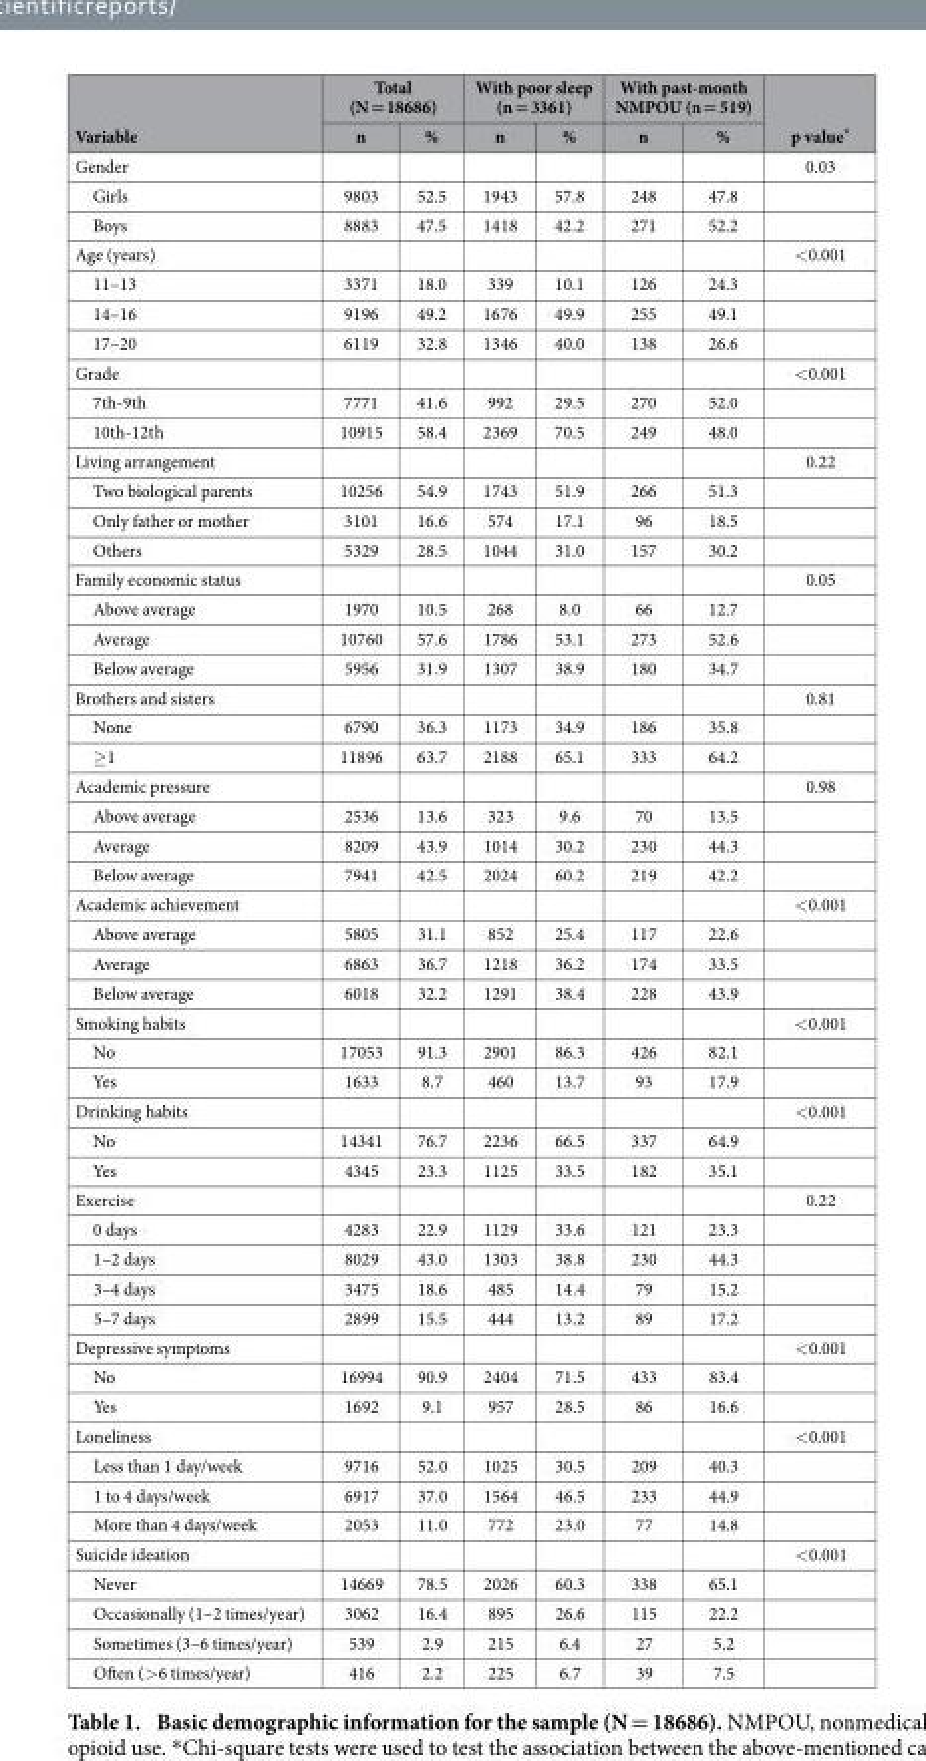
<table><thead><tr><td rowspan="2">Variable</td><td colspan="2">Total (N = 18686)</td><td colspan="2">With poor sleep (n = 3361)</td><td colspan="2">With past-month NMPOU (n = 519)</td><td rowspan="2">p value*</td></tr><tr><td>n</td><td>%</td><td>n</td><td>%</td><td>n</td><td>%</td></tr></thead><tbody><tr><td>Gender</td><td></td><td></td><td></td><td></td><td></td><td></td><td>0.03</td></tr><tr><td>Girls</td><td>9803</td><td>52.5</td><td>1943</td><td>57.8</td><td>248</td><td>47.8</td><td></td></tr><tr><td>Boys</td><td>8883</td><td>47.5</td><td>1418</td><td>42.2</td><td>271</td><td>52.2</td><td></td></tr><tr><td>Age (years)</td><td></td><td></td><td></td><td></td><td></td><td></td><td>&lt; 0.001</td></tr><tr><td>11–13</td><td>3371</td><td>18.0</td><td>339</td><td>10.1</td><td>126</td><td>24.3</td><td></td></tr><tr><td>14–16</td><td>9196</td><td>49.2</td><td>1676</td><td>49.9</td><td>255</td><td>49.1</td><td></td></tr><tr><td>17–20</td><td>6119</td><td>32.8</td><td>1346</td><td>40.0</td><td>138</td><td>26.6</td><td></td></tr><tr><td>Grade</td><td></td><td></td><td></td><td></td><td></td><td></td><td>&lt; 0.001</td></tr><tr><td>7th-9th</td><td>7771</td><td>41.6</td><td>992</td><td>29.5</td><td>270</td><td>52.0</td><td></td></tr><tr><td>10th-12th</td><td>10915</td><td>58.4</td><td>2369</td><td>70.5</td><td>249</td><td>48.0</td><td></td></tr><tr><td>Living arrangement</td><td></td><td></td><td></td><td></td><td></td><td></td><td>0.22</td></tr><tr><td>Two biological parents</td><td>10256</td><td>54.9</td><td>1743</td><td>51.9</td><td>266</td><td>51.3</td><td></td></tr><tr><td>Only father or mother</td><td>3101</td><td>16.6</td><td>574</td><td>17.1</td><td>96</td><td>18.5</td><td></td></tr><tr><td>Others</td><td>5329</td><td>28.5</td><td>1044</td><td>31.0</td><td>157</td><td>30.2</td><td></td></tr><tr><td>Family economic status</td><td></td><td></td><td></td><td></td><td></td><td></td><td>0.05</td></tr><tr><td>Above average</td><td>1970</td><td>10.5</td><td>268</td><td>8.0</td><td>66</td><td>12.7</td><td></td></tr><tr><td>Average</td><td>10760</td><td>57.6</td><td>1786</td><td>53.1</td><td>273</td><td>52.6</td><td></td></tr><tr><td>Below average</td><td>5956</td><td>31.9</td><td>1307</td><td>38.9</td><td>180</td><td>34.7</td><td></td></tr><tr><td>Brothers and sisters</td><td></td><td></td><td></td><td></td><td></td><td></td><td>0.81</td></tr><tr><td>None</td><td>6790</td><td>36.3</td><td>1173</td><td>34.9</td><td>186</td><td>35.8</td><td></td></tr><tr><td>≥ 1</td><td>11896</td><td>63.7</td><td>2188</td><td>65.1</td><td>333</td><td>64.2</td><td></td></tr><tr><td>Academic pressure</td><td></td><td></td><td></td><td></td><td></td><td></td><td>0.98</td></tr><tr><td>Above average</td><td>2536</td><td>13.6</td><td>323</td><td>9.6</td><td>70</td><td>13.5</td><td></td></tr><tr><td>Average</td><td>8209</td><td>43.9</td><td>1014</td><td>30.2</td><td>230</td><td>44.3</td><td></td></tr><tr><td>Below average</td><td>7941</td><td>42.5</td><td>2024</td><td>60.2</td><td>219</td><td>42.2</td><td></td></tr><tr><td>Academic achievement</td><td></td><td></td><td></td><td></td><td></td><td></td><td>&lt; 0.001</td></tr><tr><td>Above average</td><td>5805</td><td>31.1</td><td>852</td><td>25.4</td><td>117</td><td>22.6</td><td></td></tr><tr><td>Average</td><td>6863</td><td>36.7</td><td>1218</td><td>36.2</td><td>174</td><td>33.5</td><td></td></tr><tr><td>Below average</td><td>6018</td><td>32.2</td><td>1291</td><td>38.4</td><td>228</td><td>43.9</td><td></td></tr><tr><td>Smoking habits</td><td></td><td></td><td></td><td></td><td></td><td></td><td>&lt; 0.001</td></tr><tr><td>No</td><td>17053</td><td>91.3</td><td>2901</td><td>86.3</td><td>426</td><td>82.1</td><td></td></tr><tr><td>Yes</td><td>1633</td><td>8.7</td><td>460</td><td>13.7</td><td>93</td><td>17.9</td><td></td></tr><tr><td>Drinking habits</td><td></td><td></td><td></td><td></td><td></td><td></td><td>&lt; 0.001</td></tr><tr><td>No</td><td>14341</td><td>76.7</td><td>2236</td><td>66.5</td><td>337</td><td>64.9</td><td></td></tr><tr><td>Yes</td><td>4345</td><td>23.3</td><td>1125</td><td>33.5</td><td>182</td><td>35.1</td><td></td></tr><tr><td>Exercise</td><td></td><td></td><td></td><td></td><td></td><td></td><td>0.22</td></tr><tr><td>0 days</td><td>4283</td><td>22.9</td><td>1129</td><td>33.6</td><td>121</td><td>23.3</td><td></td></tr><tr><td>1–2 days</td><td>8029</td><td>43.0</td><td>1303</td><td>38.8</td><td>230</td><td>44.3</td><td></td></tr><tr><td>3–4 days</td><td>3475</td><td>18.6</td><td>485</td><td>14.4</td><td>79</td><td>15.2</td><td></td></tr><tr><td>5–7 days</td><td>2899</td><td>15.5</td><td>444</td><td>13.2</td><td>89</td><td>17.2</td><td></td></tr><tr><td>Depressive symptoms</td><td></td><td></td><td></td><td></td><td></td><td></td><td>&lt; 0.001</td></tr><tr><td>No</td><td>16994</td><td>90.9</td><td>2404</td><td>71.5</td><td>433</td><td>83.4</td><td></td></tr><tr><td>Yes</td><td>1692</td><td>9.1</td><td>957</td><td>28.5</td><td>86</td><td>16.6</td><td></td></tr><tr><td>Loneliness</td><td></td><td></td><td></td><td></td><td></td><td></td><td>&lt; 0.001</td></tr><tr><td>Less than 1 day/week</td><td>9716</td><td>52.0</td><td>1025</td><td>30.5</td><td>209</td><td>40.3</td><td></td></tr><tr><td>1 to 4 days/week</td><td>6917</td><td>37.0</td><td>1564</td><td>46.5</td><td>233</td><td>44.9</td><td></td></tr><tr><td>More than 4 days/week</td><td>2053</td><td>11.0</td><td>772</td><td>23.0</td><td>77</td><td>14.8</td><td></td></tr><tr><td>Suicide ideation</td><td></td><td></td><td></td><td></td><td></td><td></td><td>&lt; 0.001</td></tr><tr><td>Never</td><td>14669</td><td>78.5</td><td>2026</td><td>60.3</td><td>338</td><td>65.1</td><td></td></tr><tr><td>Occasionally (1–2 times/year)</td><td>3062</td><td>16.4</td><td>895</td><td>26.6</td><td>115</td><td>22.2</td><td></td></tr><tr><td>Sometimes (3–6 times/year)</td><td>539</td><td>2.9</td><td>215</td><td>6.4</td><td>27</td><td>5.2</td><td></td></tr><tr><td>Often (&gt; 6 times/year)</td><td>416</td><td>2.2</td><td>225</td><td>6.7</td><td>39</td><td>7.5</td><td></td></tr></tbody></table>